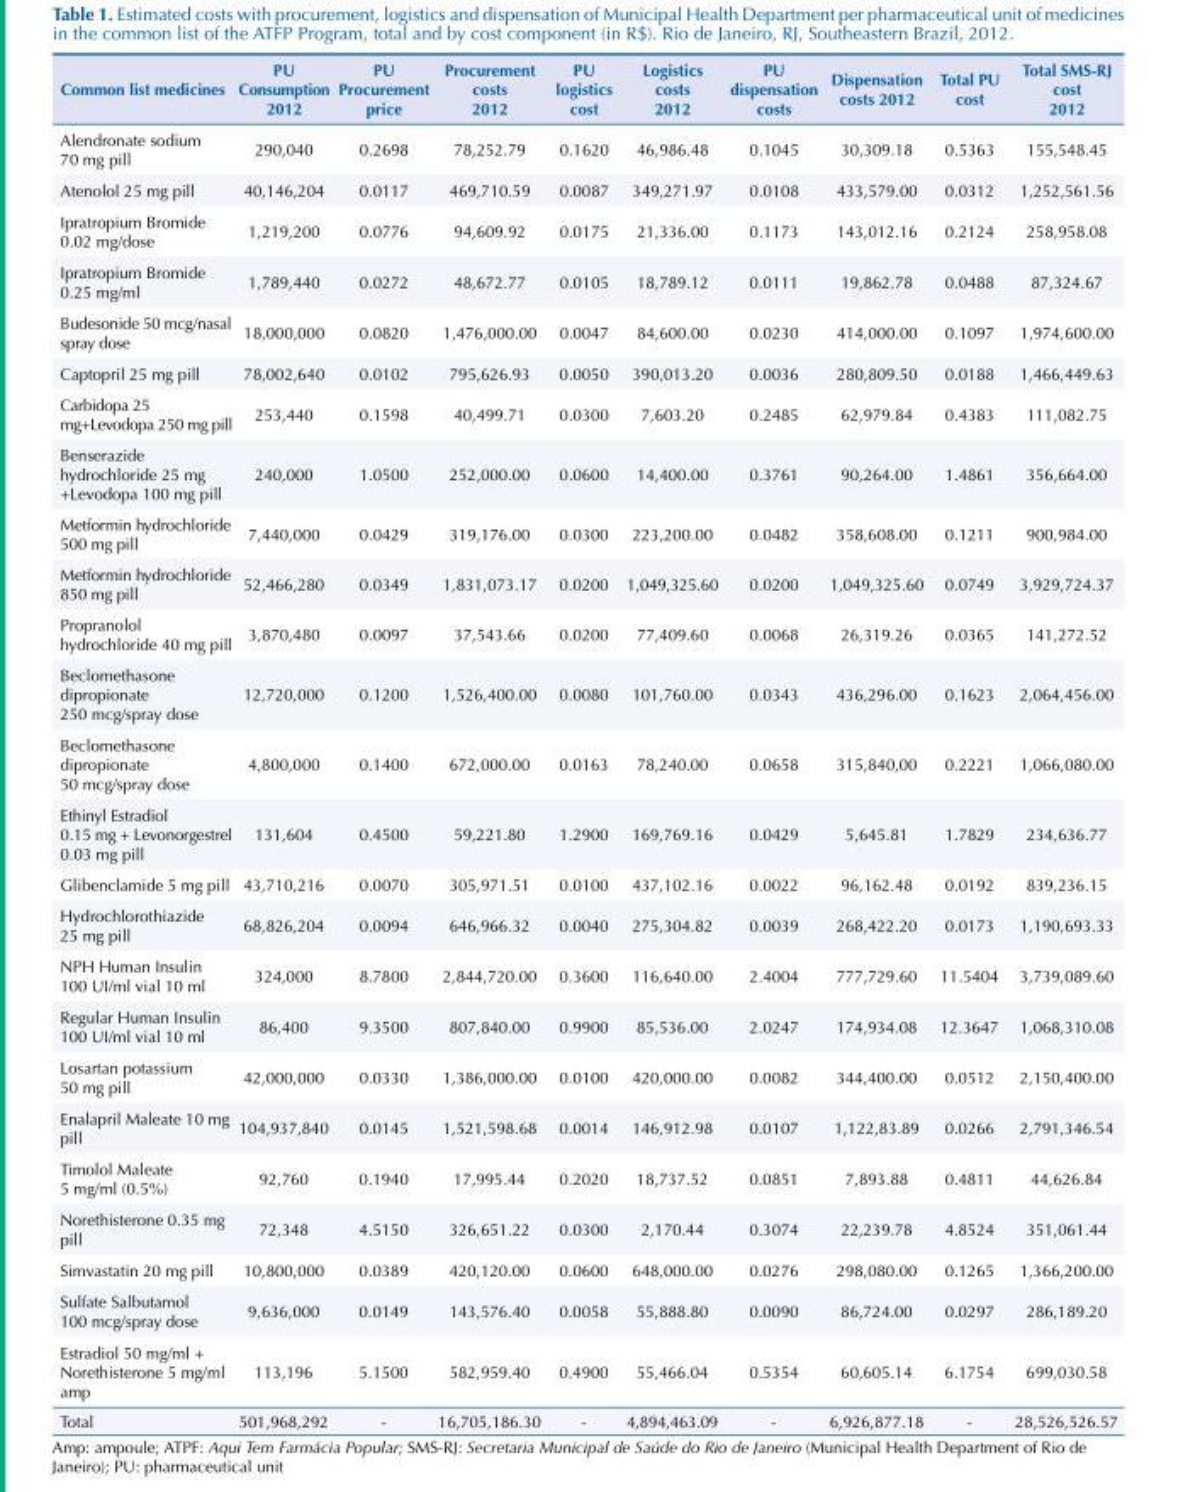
<table><thead><tr><td>Common list medicines</td><td>PU Consumption 2012</td><td>PU Procurement price</td><td>Procurement costs 2012</td><td>PU logistics cost</td><td>Logistics costs 2012</td><td>PU dispensation costs</td><td>Dispensation costs 2012</td><td>Total PU cost</td><td>Total SMS-RJ cost 2012</td></tr></thead><tbody><tr><td>Alendronate sodium 70 mg pill</td><td>290,040</td><td>0.2698</td><td>78,252.79</td><td>0.1620</td><td>46,986.48</td><td>0.1045</td><td>30,309.18</td><td>0.5363</td><td>155,548.45</td></tr><tr><td>Atenolol 25 mg pill</td><td>40,146,204</td><td>0.0117</td><td>469,710.59</td><td>0.0087</td><td>349,271.97</td><td>0.0108</td><td>433,579.00</td><td>0.0312</td><td>1,252,561.56</td></tr><tr><td>Ipratropium Bromide 0.02 mg/dose</td><td>1,219,200</td><td>0.0776</td><td>94,609.92</td><td>0.0175</td><td>21,336.00</td><td>0.1173</td><td>143,012.16</td><td>0.2124</td><td>258,958.08</td></tr><tr><td>Ipratropium Bromide 0.25 mg/ml</td><td>1,789,440</td><td>0.0272</td><td>48,672.77</td><td>0.0105</td><td>18,789.12</td><td>0.0111</td><td>19,862.78</td><td>0.0488</td><td>87,324.67</td></tr><tr><td>Budesonide 50 mcg/nasal spray dose</td><td>18,000,000</td><td>0.0820</td><td>1,476,000.00</td><td>0.0047</td><td>84,600.00</td><td>0.0230</td><td>414,000.00</td><td>0.1097</td><td>1,974,600.00</td></tr><tr><td>Captopril 25 mg pill</td><td>78,002,640</td><td>0.0102</td><td>795,626.93</td><td>0.0050</td><td>390,013.20</td><td>0.0036</td><td>280,809.50</td><td>0.0188</td><td>1,466,449.63</td></tr><tr><td>Carbidopa 25 mg+Levodopa 250 mg pill</td><td>253,440</td><td>0.1598</td><td>40,499.71</td><td>0.0300</td><td>7,603.20</td><td>0.2485</td><td>62,979.84</td><td>0.4383</td><td>111,082.75</td></tr><tr><td>Benserazide hydrochloride 25 mg +Levodopa 100 mg pill</td><td>240,000</td><td>1.0500</td><td>252,000.00</td><td>0.0600</td><td>14,400.00</td><td>0.3761</td><td>90,264.00</td><td>1.4861</td><td>356,664.00</td></tr><tr><td>Metformin hydrochloride 500 mg pill</td><td>7,440,000</td><td>0.0429</td><td>319,176.00</td><td>0.0300</td><td>223,200.00</td><td>0.0482</td><td>358,608.00</td><td>0.1211</td><td>900,984.00</td></tr><tr><td>Metformin hydrochloride 850 mg pill</td><td>52,466,280</td><td>0.0349</td><td>1,831,073.17</td><td>0.0200</td><td>1,049,325.60</td><td>0.0200</td><td>1,049,325.60</td><td>0.0749</td><td>3,929,724.37</td></tr><tr><td>Propranolol hydrochloride 40 mg pill</td><td>3,870,480</td><td>0.0097</td><td>37,543.66</td><td>0.0200</td><td>77,409.60</td><td>0.0068</td><td>26,319.26</td><td>0.0365</td><td>141,272.52</td></tr><tr><td>Beclomethasone dipropionate 250 mcg/spray dose</td><td>12,720,000</td><td>0.1200</td><td>1,526,400.00</td><td>0.0080</td><td>101,760.00</td><td>0.0343</td><td>436,296.00</td><td>0.1623</td><td>2,064,456.00</td></tr><tr><td>Beclomethasone dipropionate 50 mcg/spray dose</td><td>4,800,000</td><td>0.1400</td><td>672,000.00</td><td>0.0163</td><td>78,240.00</td><td>0.0658</td><td>315,840,00</td><td>0.2221</td><td>1,066,080.00</td></tr><tr><td>Ethinyl Estradiol 0.15 mg + Levonorgestrel 0.03 mg pill</td><td>131,604</td><td>0.4500</td><td>59,221.80</td><td>1.2900</td><td>169,769.16</td><td>0.0429</td><td>5,645.81</td><td>1.7829</td><td>234,636.77</td></tr><tr><td>Glibenclamide 5 mg pill</td><td>43,710,216</td><td>0.0070</td><td>305,971.51</td><td>0.0100</td><td>437,102.16</td><td>0.0022</td><td>96,162.48</td><td>0.0192</td><td>839,236.15</td></tr><tr><td>Hydrochlorothiazide 25 mg pill</td><td>68,826,204</td><td>0.0094</td><td>646,966.32</td><td>0.0040</td><td>275,304.82</td><td>0.0039</td><td>268,422.20</td><td>0.0173</td><td>1,190,693.33</td></tr><tr><td>NPH Human Insulin 100 UI/ml vial 10 ml</td><td>324,000</td><td>8.7800</td><td>2,844,720.00</td><td>0.3600</td><td>116,640.00</td><td>2.4004</td><td>777,729.60</td><td>11.5404</td><td>3,739,089.60</td></tr><tr><td>Regular Human Insulin 100 UI/ml vial 10 ml</td><td>86,400</td><td>9.3500</td><td>807,840.00</td><td>0.9900</td><td>85,536.00</td><td>2.0247</td><td>174,934.08</td><td>12.3647</td><td>1,068,310.08</td></tr><tr><td>Losartan potassium 50 mg pill</td><td>42,000,000</td><td>0.0330</td><td>1,386,000.00</td><td>0.0100</td><td>420,000.00</td><td>0.0082</td><td>344,400.00</td><td>0.0512</td><td>2,150,400.00</td></tr><tr><td>Enalapril Maleate 10 mg pill</td><td>104,937,840</td><td>0.0145</td><td>1,521,598.68</td><td>0.0014</td><td>146,912.98</td><td>0.0107</td><td>1,122,83.89</td><td>0.0266</td><td>2,791,346.54</td></tr><tr><td>Timolol Maleate 5 mg/ml (0.5%)</td><td>92,760</td><td>0.1940</td><td>17,995.44</td><td>0.2020</td><td>18,737.52</td><td>0.0851</td><td>7,893.88</td><td>0.4811</td><td>44,626.84</td></tr><tr><td>Norethisterone 0.35 mg pill</td><td>72,348</td><td>4.5150</td><td>326,651.22</td><td>0.0300</td><td>2,170.44</td><td>0.3074</td><td>22,239.78</td><td>4.8524</td><td>351,061.44</td></tr><tr><td>Simvastatin 20 mg pill</td><td>10,800,000</td><td>0.0389</td><td>420,120.00</td><td>0.0600</td><td>648,000.00</td><td>0.0276</td><td>298,080.00</td><td>0.1265</td><td>1,366,200.00</td></tr><tr><td>Sulfate Salbutamol 100 mcg/spray dose</td><td>9,636,000</td><td>0.0149</td><td>143,576.40</td><td>0.0058</td><td>55,888.80</td><td>0.0090</td><td>86,724.00</td><td>0.0297</td><td>286,189.20</td></tr><tr><td>Estradiol 50 mg/ml + Norethisterone 5 mg/ml amp</td><td>113,196</td><td>5.1500</td><td>582,959.40</td><td>0.4900</td><td>55,466.04</td><td>0.5354</td><td>60,605.14</td><td>6.1754</td><td>699,030.58</td></tr><tr><td>Total</td><td>501,968,292</td><td>-</td><td>16,705,186.30</td><td>-</td><td>4,894,463.09</td><td>-</td><td>6,926,877.18</td><td>-</td><td>28,526,526.57</td></tr></tbody></table>